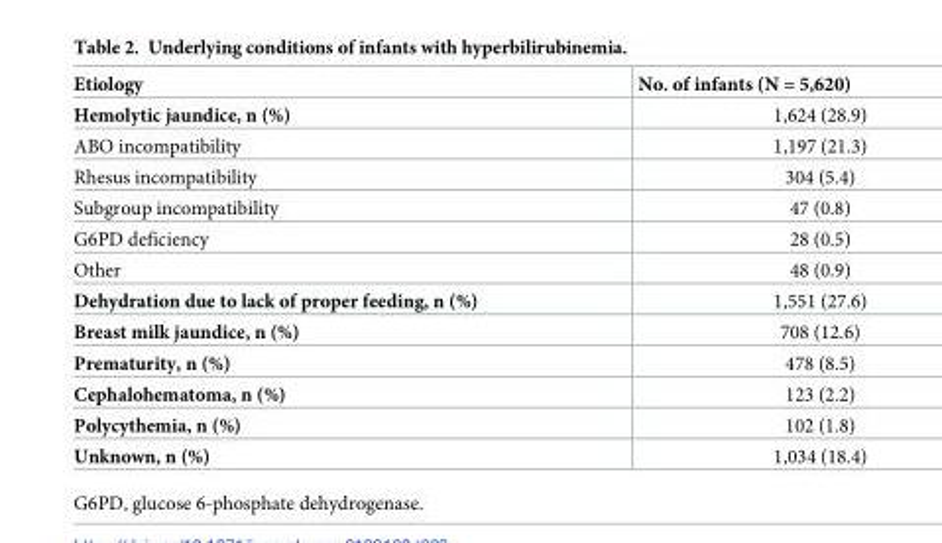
<table><thead><tr><td>Etiology</td><td>No. of infants (N = 5,620)</td></tr></thead><tbody><tr><td>Hemolytic jaundice, n (%)</td><td>1,624 (28.9)</td></tr><tr><td>ABO incompatibility</td><td>1,197 (21.3)</td></tr><tr><td>Rhesus incompatibility</td><td>304 (5.4)</td></tr><tr><td>Subgroup incompatibility</td><td>47 (0.8)</td></tr><tr><td>G6PD deficiency</td><td>28 (0.5)</td></tr><tr><td>Other</td><td>48 (0.9)</td></tr><tr><td>Dehydration due to lack of proper feeding, n (%)</td><td>1,551 (27.6)</td></tr><tr><td>Breast milk jaundice, n (%)</td><td>708 (12.6)</td></tr><tr><td>Prematurity, n (%)</td><td>478 (8.5)</td></tr><tr><td>Cephalohematoma, n (%)</td><td>123 (2.2)</td></tr><tr><td>Polycythemia, n (%)</td><td>102 (1.8)</td></tr><tr><td>Unknown, n (%)</td><td>1,034 (18.4)</td></tr></tbody></table>